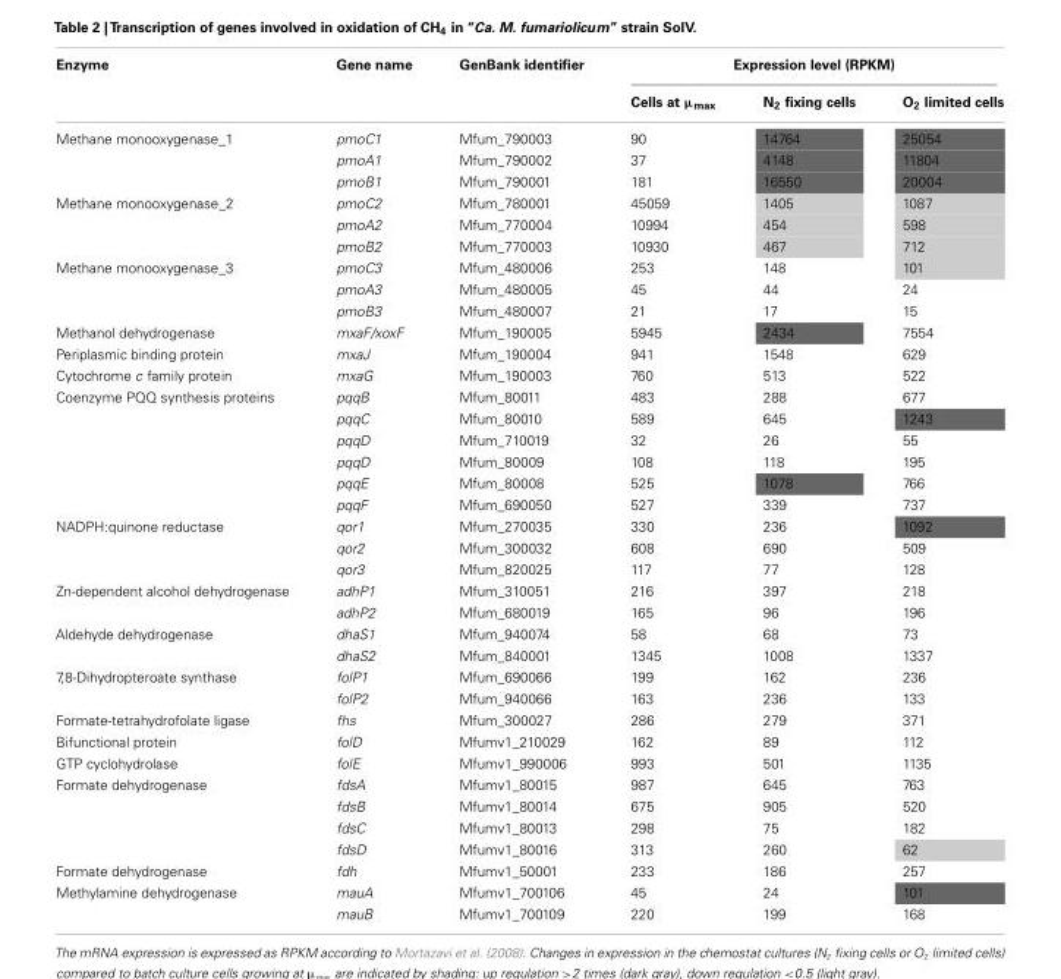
<table><thead><tr><td rowspan="2">Enzyme</td><td rowspan="2">Gene name</td><td rowspan="2">GenBank identifier</td><td colspan="3">Expression level (RPKM)</td></tr><tr><td>Cells at µ<sub>max</sub></td><td>N<sub>2</sub> fixing cells</td><td>O<sub>2</sub> limited cells</td></tr></thead><tbody><tr><td rowspan="3">Methane monooxygenase_1</td><td>pmoC1</td><td>Mfum_790003</td><td>90</td><td>14764</td><td>25054</td></tr><tr><td>pmoA1</td><td>Mfum_790002</td><td>37</td><td>4148</td><td>11804</td></tr><tr><td>pmoB1</td><td>Mfum_790001</td><td>181</td><td>16550</td><td>20004</td></tr><tr><td rowspan="3">Methane monooxygenase_2</td><td>pmoC2</td><td>Mfum_780001</td><td>45059</td><td>1405</td><td>1087</td></tr><tr><td>pmoA2</td><td>Mfum_770004</td><td>10994</td><td>454</td><td>598</td></tr><tr><td>pmoB2</td><td>Mfum_770003</td><td>10930</td><td>467</td><td>712</td></tr><tr><td rowspan="3">Methane monooxygenase_3</td><td>pmoC3</td><td>Mfum_480006</td><td>253</td><td>148</td><td>101</td></tr><tr><td>pmoA3</td><td>Mfum_480005</td><td>45</td><td>44</td><td>24</td></tr><tr><td>pmoB3</td><td>Mfum_480007</td><td>21</td><td>17</td><td>15</td></tr><tr><td>Methanol dehydrogenase</td><td>mxaF/xoxF</td><td>Mfum_190005</td><td>5945</td><td>2434</td><td>7554</td></tr><tr><td>Periplasmic binding protein</td><td>mxaJ</td><td>Mfum_190004</td><td>941</td><td>1548</td><td>629</td></tr><tr><td>Cytochrome c family protein</td><td>mxaG</td><td>Mfum_190003</td><td>760</td><td>513</td><td>522</td></tr><tr><td rowspan="6">Coenzyme PQQ synthesis proteins</td><td>pqqB</td><td>Mfum_80011</td><td>483</td><td>288</td><td>677</td></tr><tr><td>pqqC</td><td>Mfum_80010</td><td>589</td><td>645</td><td>1243</td></tr><tr><td>pqqD</td><td>Mfum_710019</td><td>32</td><td>26</td><td>55</td></tr><tr><td>pqqD</td><td>Mfum_80009</td><td>108</td><td>118</td><td>195</td></tr><tr><td>pqqE</td><td>Mfum_80008</td><td>525</td><td>1078</td><td>766</td></tr><tr><td>pqqF</td><td>Mfum_690050</td><td>527</td><td>339</td><td>737</td></tr><tr><td rowspan="3">NADPH:quinone reductase</td><td>qor1</td><td>Mfum_270035</td><td>330</td><td>236</td><td>1092</td></tr><tr><td>qor2</td><td>Mfum_300032</td><td>608</td><td>690</td><td>509</td></tr><tr><td>qor3</td><td>Mfum_820025</td><td>117</td><td>77</td><td>128</td></tr><tr><td rowspan="2">Zn-dependent alcohol dehydrogenase</td><td>adhP1</td><td>Mfum_310051</td><td>216</td><td>397</td><td>218</td></tr><tr><td>adhP2</td><td>Mfum_680019</td><td>165</td><td>96</td><td>196</td></tr><tr><td rowspan="2">Aldehyde dehydrogenase</td><td>dhaS1</td><td>Mfum_940074</td><td>58</td><td>68</td><td>73</td></tr><tr><td>dhaS2</td><td>Mfum_840001</td><td>1345</td><td>1008</td><td>1337</td></tr><tr><td rowspan="2">7,8-Dihydropteroate synthase</td><td>folP1</td><td>Mfum_690066</td><td>199</td><td>162</td><td>236</td></tr><tr><td>folP2</td><td>Mfum_940066</td><td>163</td><td>236</td><td>133</td></tr><tr><td>Formate-tetrahydrofolate ligase</td><td>fhs</td><td>Mfum_300027</td><td>286</td><td>279</td><td>371</td></tr><tr><td>Bifunctional protein</td><td>folD</td><td>Mfumv1_210029</td><td>162</td><td>89</td><td>112</td></tr><tr><td>GTP cyclohydrolase</td><td>folE</td><td>Mfumv1_990006</td><td>993</td><td>501</td><td>1135</td></tr><tr><td rowspan="4">Formate dehydrogenase</td><td>fdsA</td><td>Mfumv1_80015</td><td>987</td><td>645</td><td>763</td></tr><tr><td>fdsB</td><td>Mfumv1_80014</td><td>675</td><td>905</td><td>520</td></tr><tr><td>fdsC</td><td>Mfumv1_80013</td><td>298</td><td>75</td><td>182</td></tr><tr><td>fdsD</td><td>Mfumv1_80016</td><td>313</td><td>260</td><td>62</td></tr><tr><td>Formate dehydrogenase</td><td>fdh</td><td>Mfumv1_50001</td><td>233</td><td>186</td><td>257</td></tr><tr><td rowspan="2">Methylamine dehydrogenase</td><td>mauA</td><td>Mfumv1_700106</td><td>45</td><td>24</td><td>101</td></tr><tr><td>mauB</td><td>Mfumv1_700109</td><td>220</td><td>199</td><td>168</td></tr></tbody></table>